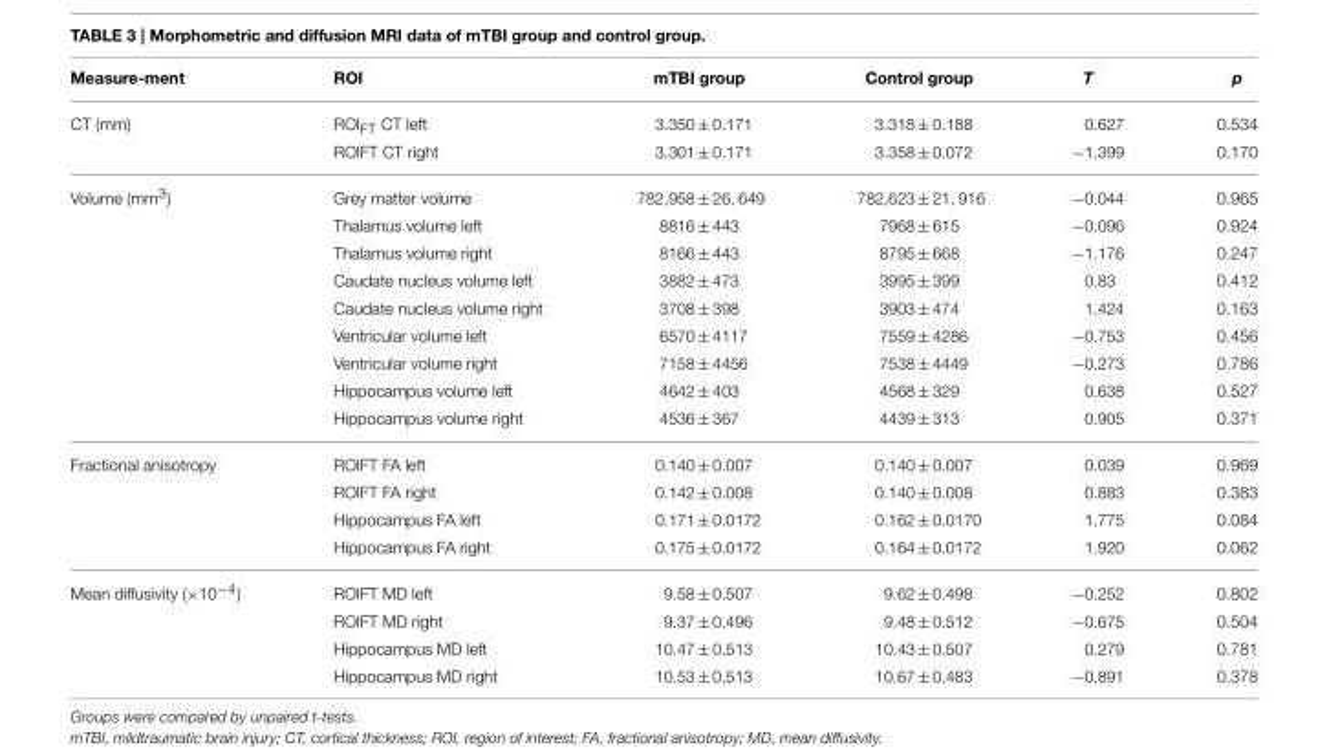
<table><thead><tr><td>Measure-ment</td><td>ROI</td><td>mTBI group</td><td>Control group</td><td>T</td><td>p</td></tr></thead><tbody><tr><td rowspan="2">CT (mm)</td><td>ROI<sub>FT</sub> CT left</td><td>3.350 ± 0.171</td><td>3.318 ± 0.188</td><td>0.627</td><td>0.534</td></tr><tr><td>ROIFT CT right</td><td>3.301 ± 0.171</td><td>3.358 ± 0.072</td><td>−1.399</td><td>0.170</td></tr><tr><td rowspan="9">Volume (mm<sup>3</sup>)</td><td>Grey matter volume</td><td>782,958 ± 26, 649</td><td>782,623 ± 21, 916</td><td>−0.044</td><td>0.965</td></tr><tr><td>Thalamus volume left</td><td>8816 ± 443</td><td>7968 ± 615</td><td>−0.096</td><td>0.924</td></tr><tr><td>Thalamus volume right</td><td>8166 ± 443</td><td>8795 ± 668</td><td>−1.176</td><td>0.247</td></tr><tr><td>Caudate nucleus volume left</td><td>3882 ± 473</td><td>3995 ± 399</td><td>0.83</td><td>0.412</td></tr><tr><td>Caudate nucleus volume right</td><td>3708 ± 398</td><td>3903 ± 474</td><td>1.424</td><td>0.163</td></tr><tr><td>Ventricular volume left</td><td>6570 ± 4117</td><td>7559 ± 4286</td><td>−0.753</td><td>0.456</td></tr><tr><td>Ventricular volume right</td><td>7158 ± 4456</td><td>7538 ± 4449</td><td>−0.273</td><td>0.786</td></tr><tr><td>Hippocampus volume left</td><td>4642 ± 403</td><td>4568 ± 329</td><td>0.638</td><td>0.527</td></tr><tr><td>Hippocampus volume right</td><td>4536 ± 367</td><td>4439 ± 313</td><td>0.905</td><td>0.371</td></tr><tr><td rowspan="4">Fractional anisotropy</td><td>ROIFT FA left</td><td>0.140 ± 0.007</td><td>0.140 ± 0.007</td><td>0.039</td><td>0.969</td></tr><tr><td>ROIFT FA right</td><td>0.142 ± 0.008</td><td>0.140 ± 0.008</td><td>0.883</td><td>0.383</td></tr><tr><td>Hippocampus FA left</td><td>0.171 ± 0.0172</td><td>0.162 ± 0.0170</td><td>1.775</td><td>0.084</td></tr><tr><td>Hippocampus FA right</td><td>0.175 ± 0.0172</td><td>0.164 ± 0.0172</td><td>1.920</td><td>0.062</td></tr><tr><td rowspan="4">Mean diffusivity (×10<sup>−4</sup>)</td><td>ROIFT MD left</td><td>9.58 ± 0.507</td><td>9.62 ± 0.498</td><td>−0.252</td><td>0.802</td></tr><tr><td>ROIFT MD right</td><td>9.37 ± 0.496</td><td>9.48 ± 0.512</td><td>−0.675</td><td>0.504</td></tr><tr><td>Hippocampus MD left</td><td>10.47 ± 0.513</td><td>10.43 ± 0.507</td><td>0.279</td><td>0.781</td></tr><tr><td>Hippocampus MD right</td><td>10.53 ± 0.513</td><td>10.67 ± 0.483</td><td>−0.891</td><td>0.378</td></tr></tbody></table>